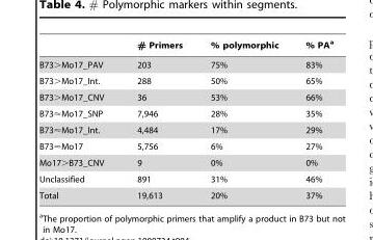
<table><thead><tr><td></td><td># Primers</td><td>% polymorphic</td><td>% PA<sup>a</sup></td></tr></thead><tbody><tr><td>B73&gt;Mo17_PAV</td><td>203</td><td>75%</td><td>83%</td></tr><tr><td>B73&gt;Mo17_Int.</td><td>288</td><td>50%</td><td>65%</td></tr><tr><td>B73&gt;Mo17_CNV</td><td>36</td><td>53%</td><td>66%</td></tr><tr><td>B73&lt;Mo17_SNP</td><td>7,946</td><td>28%</td><td>35%</td></tr><tr><td>B73&lt;Mo17_Int.</td><td>4,484</td><td>17%</td><td>29%</td></tr><tr><td>B73&lt;Mo17</td><td>5,756</td><td>6%</td><td>27%</td></tr><tr><td>Mo17&gt;B73_CNV</td><td>9</td><td>0%</td><td>0%</td></tr><tr><td>Unclassified</td><td>891</td><td>31%</td><td>46%</td></tr><tr><td>Total</td><td>19,613</td><td>20%</td><td>37%</td></tr></tbody></table>